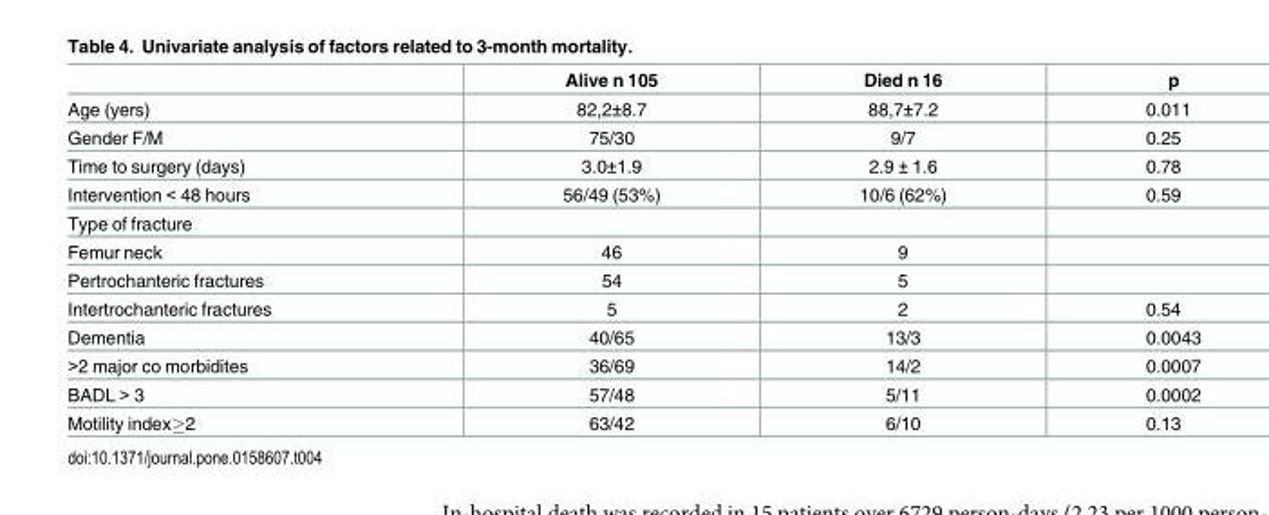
<table><thead><tr><td></td><td>Alive n 105</td><td>Died n 16</td><td>p</td></tr></thead><tbody><tr><td>Age (yers)</td><td>82,2±8.7</td><td>88,7±7.2</td><td>0.011</td></tr><tr><td>Gender F/M</td><td>75/30</td><td>9/7</td><td>0.25</td></tr><tr><td>Time to surgery (days)</td><td>3.0±1.9</td><td>2.9 ± 1.6</td><td>0.78</td></tr><tr><td>Intervention &lt; 48 hours</td><td>56/49 (53%)</td><td>10/6 (62%)</td><td>0.59</td></tr><tr><td colspan="4">Type of fracture</td></tr><tr><td>Femur neck</td><td>46</td><td>9</td><td></td></tr><tr><td>Pertrochanteric fractures</td><td>54</td><td>5</td><td></td></tr><tr><td>Intertrochanteric fractures</td><td>5</td><td>2</td><td>0.54</td></tr><tr><td>Dementia</td><td>40/65</td><td>13/3</td><td>0.0043</td></tr><tr><td>&gt;2 major co morbidites</td><td>36/69</td><td>14/2</td><td>0.0007</td></tr><tr><td>BADL &gt; 3</td><td>57/48</td><td>5/11</td><td>0.0002</td></tr><tr><td>Motility index≥2</td><td>63/42</td><td>6/10</td><td>0.13</td></tr></tbody></table>